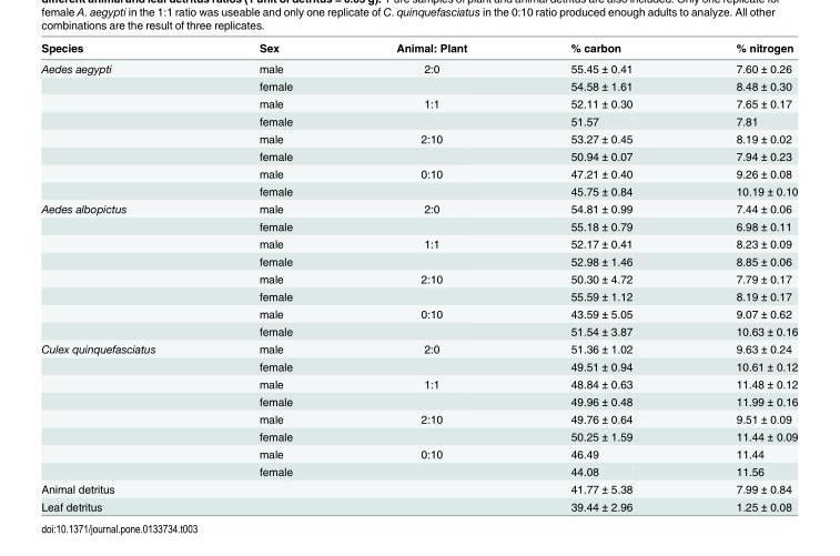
<table><thead><tr><td>Species</td><td>Sex</td><td>Animal: Plant</td><td>% carbon</td><td>% nitrogen</td></tr></thead><tbody><tr><td rowspan="8">Aedes aegypti</td><td>male</td><td>2:0</td><td>55.45 ± 0.41</td><td>7.60 ± 0.26</td></tr><tr><td>female</td><td></td><td>54.58 ± 1.61</td><td>8.48 ± 0.30</td></tr><tr><td>male</td><td>1:1</td><td>52.11 ± 0.30</td><td>7.65 ± 0.17</td></tr><tr><td>female</td><td></td><td>51.57</td><td>7.81</td></tr><tr><td>male</td><td>2:10</td><td>53.27 ± 0.45</td><td>8.19 ± 0.02</td></tr><tr><td>female</td><td></td><td>50.94 ± 0.07</td><td>7.94 ± 0.23</td></tr><tr><td>male</td><td>0:10</td><td>47.21 ± 0.40</td><td>9.26 ± 0.08</td></tr><tr><td>female</td><td></td><td>45.75 ± 0.84</td><td>10.19 ± 0.10</td></tr><tr><td rowspan="8">Aedes albopictus</td><td>male</td><td>2:0</td><td>54.81 ± 0.99</td><td>7.44 ± 0.06</td></tr><tr><td>female</td><td></td><td>55.18 ± 0.79</td><td>6.98 ± 0.11</td></tr><tr><td>male</td><td>1:1</td><td>52.17 ± 0.41</td><td>8.23 ± 0.09</td></tr><tr><td>female</td><td></td><td>52.98 ± 1.46</td><td>8.85 ± 0.06</td></tr><tr><td>male</td><td>2:10</td><td>50.30 ± 4.72</td><td>7.79 ± 0.17</td></tr><tr><td>female</td><td></td><td>55.59 ± 1.12</td><td>8.19 ± 0.17</td></tr><tr><td>male</td><td>0:10</td><td>43.59 ± 5.05</td><td>9.07 ± 0.62</td></tr><tr><td>female</td><td></td><td>51.54 ± 3.87</td><td>10.63 ± 0.16</td></tr><tr><td rowspan="8">Culex quinquefasciatus</td><td>male</td><td>2:0</td><td>51.36 ± 1.02</td><td>9.63 ± 0.24</td></tr><tr><td>female</td><td></td><td>49.51 ± 0.94</td><td>10.61 ± 0.12</td></tr><tr><td>male</td><td>1:1</td><td>48.84 ± 0.63</td><td>11.48 ± 0.12</td></tr><tr><td>female</td><td></td><td>49.96 ± 0.48</td><td>11.99 ± 0.16</td></tr><tr><td>male</td><td>2:10</td><td>49.76 ± 0.64</td><td>9.51 ± 0.09</td></tr><tr><td>female</td><td></td><td>50.25 ± 1.59</td><td>11.44 ± 0.09</td></tr><tr><td>male</td><td>0:10</td><td>46.49</td><td>11.44</td></tr><tr><td>female</td><td></td><td>44.08</td><td>11.56</td></tr><tr><td>Animal detritus</td><td></td><td></td><td>41.77 ± 5.38</td><td>7.99 ± 0.84</td></tr><tr><td>Leaf detritus</td><td></td><td></td><td>39.44 ± 2.96</td><td>1.25 ± 0.08</td></tr></tbody></table>